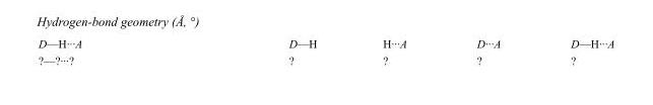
<table><tbody><tr><td>D—H···A</td><td>D—H</td><td>H···A</td><td>D···A</td><td>D—H···A</td></tr><tr><td>?—?···?</td><td>?</td><td>?</td><td>?</td><td>?</td></tr></tbody></table>